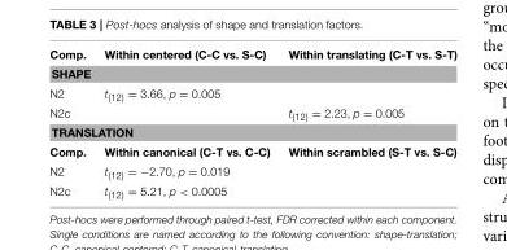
<table><thead><tr><td>Comp.</td><td>Within centered (C-C vs. S-C)</td><td>Within translating (C-T vs. S-T)</td></tr></thead><tbody><tr><td colspan="3">SHAPE</td></tr><tr><td>N2</td><td>t<sub>(12)</sub> = 3.66, p = 0.005</td><td></td></tr><tr><td>N2c</td><td></td><td>t<sub>(12)</sub> = 2.23, p = 0.005</td></tr><tr><td colspan="3">TRANSLATION</td></tr><tr><td>Comp.</td><td>Within canonical (C-T vs. C-C)</td><td>Within scrambled (S-T vs. S-C)</td></tr><tr><td>N2</td><td>t<sub>(12)</sub> = −2.70, p = 0.019</td><td></td></tr><tr><td>N2c</td><td>t<sub>(12)</sub> = 5.21, p &lt; 0.0005</td><td></td></tr></tbody></table>